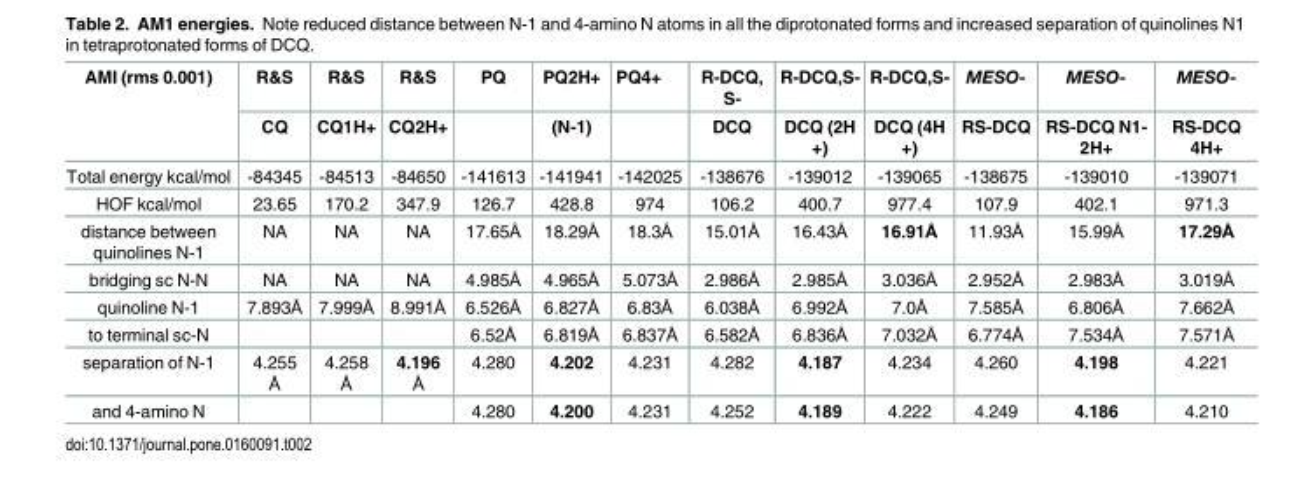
<table><thead><tr><td rowspan="2">AMI (rms 0.001)</td><td rowspan="2">R&amp;S CQ</td><td rowspan="2">R&amp;S CQ1H+</td><td rowspan="2">R&amp;S CQ2H+</td><td rowspan="2">PQ</td><td rowspan="2">PQ2H+ (N-1)</td><td rowspan="2">PQ4+</td><td rowspan="2">R-DCQ, S- DCQ</td><td rowspan="2">R-DCQ,S- DCQ (2H +)</td><td rowspan="2">R-DCQ,S- DCQ (4H +)</td><td rowspan="2">MESO- RS-DCQ</td><td rowspan="2">MESO- RS-DCQ N1- 2H+</td><td rowspan="2">MESO- RS-DCQ 4H+</td></tr><tr></tr></thead><tbody><tr><td>Total energy kcal/mol</td><td>-84345</td><td>-84513</td><td>-84650</td><td>-141613</td><td>-141941</td><td>-142025</td><td>-138676</td><td>-139012</td><td>-139065</td><td>-138675</td><td>-139010</td><td>-139071</td></tr><tr><td>HOF kcal/mol</td><td>23.65</td><td>170.2</td><td>347.9</td><td>126.7</td><td>428.8</td><td>974</td><td>106.2</td><td>400.7</td><td>977.4</td><td>107.9</td><td>402.1</td><td>971.3</td></tr><tr><td>distance between quinolines N-1</td><td>NA</td><td>NA</td><td>NA</td><td>17.65Å</td><td>18.29Å</td><td>18.3Å</td><td>15.01Å</td><td>16.43Å</td><td>16.91Å</td><td>11.93Å</td><td>15.99Å</td><td>17.29Å</td></tr><tr><td>bridging sc N-N</td><td>NA</td><td>NA</td><td>NA</td><td>4.985Å</td><td>4.965Å</td><td>5.073Å</td><td>2.986Å</td><td>2.985Å</td><td>3.036Å</td><td>2.952Å</td><td>2.983Å</td><td>3.019Å</td></tr><tr><td>quinoline N-1</td><td>7.893Å</td><td>7.999Å</td><td>8.991Å</td><td>6.526Å</td><td>6.827Å</td><td>6.83Å</td><td>6.038Å</td><td>6.992Å</td><td>7.0Å</td><td>7.585Å</td><td>6.806Å</td><td>7.662Å</td></tr><tr><td>to terminal sc-N</td><td></td><td></td><td></td><td>6.52Å</td><td>6.819Å</td><td>6.837Å</td><td>6.582Å</td><td>6.836Å</td><td>7.032Å</td><td>6.774Å</td><td>7.534Å</td><td>7.571Å</td></tr><tr><td>separation of N-1</td><td>4.255 Å</td><td>4.258 Å</td><td>4.196 Å</td><td>4.280</td><td>4.202</td><td>4.231</td><td>4.282</td><td>4.187</td><td>4.234</td><td>4.260</td><td>4.198</td><td>4.221</td></tr><tr><td>and 4-amino N</td><td></td><td></td><td></td><td>4.280</td><td>4.200</td><td>4.231</td><td>4.252</td><td>4.189</td><td>4.222</td><td>4.249</td><td>4.186</td><td>4.210</td></tr></tbody></table>